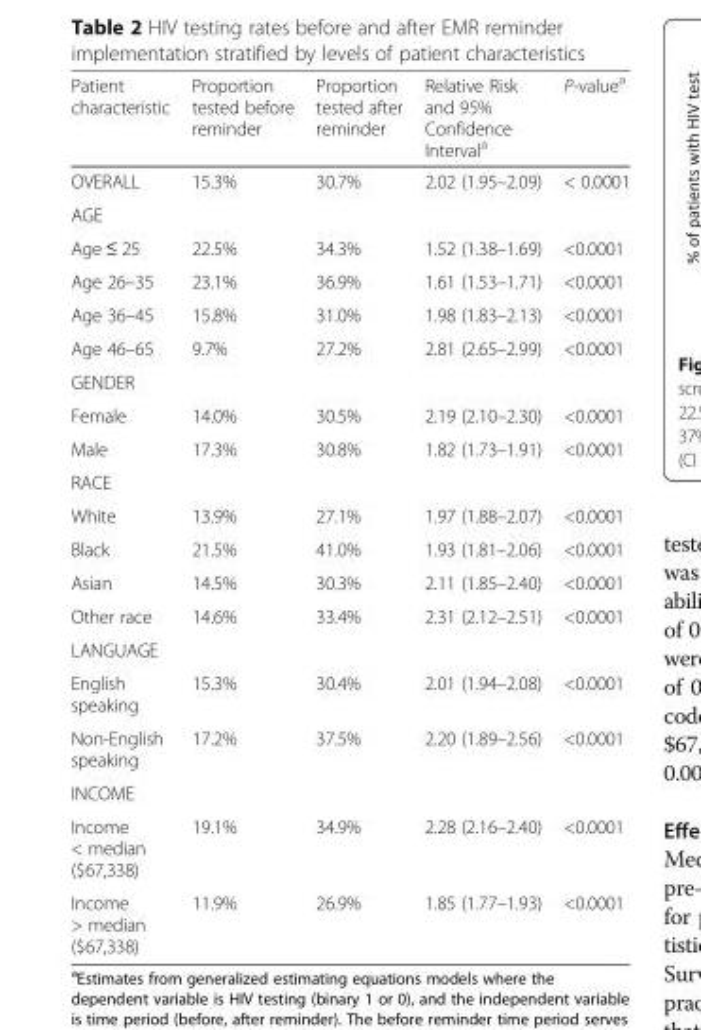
<table><thead><tr><td>Patient characteristic</td><td>Proportion tested before reminder</td><td>Proportion tested after reminder</td><td>Relative Risk and 95% Confidence Interval<sup>a</sup></td><td>P-value<sup>a</sup></td></tr></thead><tbody><tr><td>OVERALL</td><td>15.3%</td><td>30.7%</td><td>2.02 (1.95–2.09)</td><td>&lt; 0.0001</td></tr><tr><td colspan="5">AGE</td></tr><tr><td>Age ≤ 25</td><td>22.5%</td><td>34.3%</td><td>1.52 (1.38–1.69)</td><td>&lt;0.0001</td></tr><tr><td>Age 26–35</td><td>23.1%</td><td>36.9%</td><td>1.61 (1.53–1.71)</td><td>&lt;0.0001</td></tr><tr><td>Age 36–45</td><td>15.8%</td><td>31.0%</td><td>1.98 (1.83–2.13)</td><td>&lt;0.0001</td></tr><tr><td>Age 46–65</td><td>9.7%</td><td>27.2%</td><td>2.81 (2.65–2.99)</td><td>&lt;0.0001</td></tr><tr><td colspan="5">GENDER</td></tr><tr><td>Female</td><td>14.0%</td><td>30.5%</td><td>2.19 (2.10–2.30)</td><td>&lt;0.0001</td></tr><tr><td>Male</td><td>17.3%</td><td>30.8%</td><td>1.82 (1.73–1.91)</td><td>&lt;0.0001</td></tr><tr><td colspan="5">RACE</td></tr><tr><td>White</td><td>13.9%</td><td>27.1%</td><td>1.97 (1.88–2.07)</td><td>&lt;0.0001</td></tr><tr><td>Black</td><td>21.5%</td><td>41.0%</td><td>1.93 (1.81–2.06)</td><td>&lt;0.0001</td></tr><tr><td>Asian</td><td>14.5%</td><td>30.3%</td><td>2.11 (1.85–2.40)</td><td>&lt;0.0001</td></tr><tr><td>Other race</td><td>14.6%</td><td>33.4%</td><td>2.31 (2.12–2.51)</td><td>&lt;0.0001</td></tr><tr><td colspan="5">LANGUAGE</td></tr><tr><td>English speaking</td><td>15.3%</td><td>30.4%</td><td>2.01 (1.94–2.08)</td><td>&lt;0.0001</td></tr><tr><td>Non-English speaking</td><td>17.2%</td><td>37.5%</td><td>2.20 (1.89–2.56)</td><td>&lt;0.0001</td></tr><tr><td colspan="5">INCOME</td></tr><tr><td>Income &lt; median ($67,338)</td><td>19.1%</td><td>34.9%</td><td>2.28 (2.16–2.40)</td><td>&lt;0.0001</td></tr><tr><td>Income &gt; median ($67,338)</td><td>11.9%</td><td>26.9%</td><td>1.85 (1.77–1.93)</td><td>&lt;0.0001</td></tr></tbody></table>